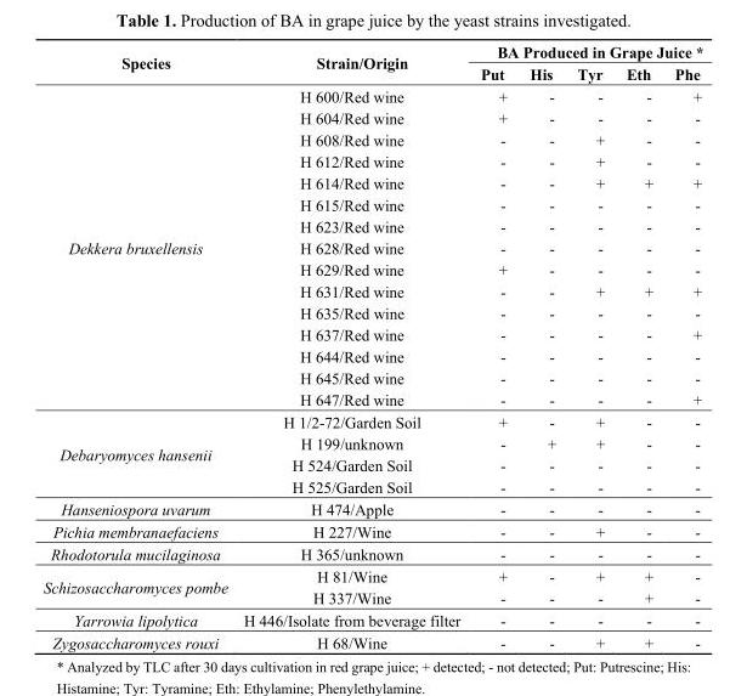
<table><thead><tr><td rowspan="2">Species</td><td rowspan="2">Strain/Origin</td><td colspan="5">BA Produced in Grape Juice *</td></tr><tr><td>Put</td><td>His</td><td>Tyr</td><td>Eth</td><td>Phe</td></tr></thead><tbody><tr><td rowspan="15">Dekkera bruxellensis</td><td>H 600/Red wine</td><td>+</td><td>-</td><td>-</td><td>-</td><td>+</td></tr><tr><td>H 604/Red wine</td><td>+</td><td>-</td><td>-</td><td>-</td><td>-</td></tr><tr><td>H 608/Red wine</td><td>-</td><td>-</td><td>+</td><td>-</td><td>-</td></tr><tr><td>H 612/Red wine</td><td>-</td><td>-</td><td>+</td><td>-</td><td>-</td></tr><tr><td>H 614/Red wine</td><td>-</td><td>-</td><td>+</td><td>+</td><td>+</td></tr><tr><td>H 615/Red wine</td><td>-</td><td>-</td><td>-</td><td>-</td><td>-</td></tr><tr><td>H 623/Red wine</td><td>-</td><td>-</td><td>-</td><td>-</td><td>-</td></tr><tr><td>H 628/Red wine</td><td>-</td><td>-</td><td>-</td><td>-</td><td>-</td></tr><tr><td>H 629/Red wine</td><td>+</td><td>-</td><td>-</td><td>-</td><td>-</td></tr><tr><td>H 631/Red wine</td><td>-</td><td>-</td><td>+</td><td>+</td><td>+</td></tr><tr><td>H 635/Red wine</td><td>-</td><td>-</td><td>-</td><td>-</td><td>-</td></tr><tr><td>H 637/Red wine</td><td>-</td><td>-</td><td>-</td><td>-</td><td>+</td></tr><tr><td>H 644/Red wine</td><td>-</td><td>-</td><td>-</td><td>-</td><td>-</td></tr><tr><td>H 645/Red wine</td><td>-</td><td>-</td><td>-</td><td>-</td><td>-</td></tr><tr><td>H 647/Red wine</td><td>-</td><td>-</td><td>-</td><td>-</td><td>+</td></tr><tr><td rowspan="4">Debaryomyces hansenii</td><td>H 1/2-72/Garden Soil</td><td>+</td><td>-</td><td>+</td><td>-</td><td>-</td></tr><tr><td>H 199/unknown</td><td>-</td><td>+</td><td>+</td><td>-</td><td>-</td></tr><tr><td>H 524/Garden Soil</td><td>-</td><td>-</td><td>-</td><td>-</td><td>-</td></tr><tr><td>H 525/Garden Soil</td><td>-</td><td>-</td><td>-</td><td>-</td><td>-</td></tr><tr><td>Hanseniospora uvarum</td><td>H 474/Apple</td><td>-</td><td>-</td><td>-</td><td>-</td><td>-</td></tr><tr><td>Pichia membranaefaciens</td><td>H 227/Wine</td><td>-</td><td>-</td><td>+</td><td>-</td><td>-</td></tr><tr><td>Rhodotorula mucilaginosa</td><td>H 365/unknown</td><td>-</td><td>-</td><td>-</td><td>-</td><td>-</td></tr><tr><td rowspan="2">Schizosaccharomyces pombe</td><td>H 81/Wine</td><td>+</td><td>-</td><td>+</td><td>+</td><td>-</td></tr><tr><td>H 337/Wine</td><td>-</td><td>-</td><td>-</td><td>+</td><td>-</td></tr><tr><td>Yarrowia lipolytica</td><td>H 446/Isolate from beverage filter</td><td>-</td><td>-</td><td>-</td><td>-</td><td>-</td></tr><tr><td>Zygosaccharomyces rouxi</td><td>H 68/Wine</td><td>-</td><td>-</td><td>+</td><td>+</td><td>-</td></tr></tbody></table>